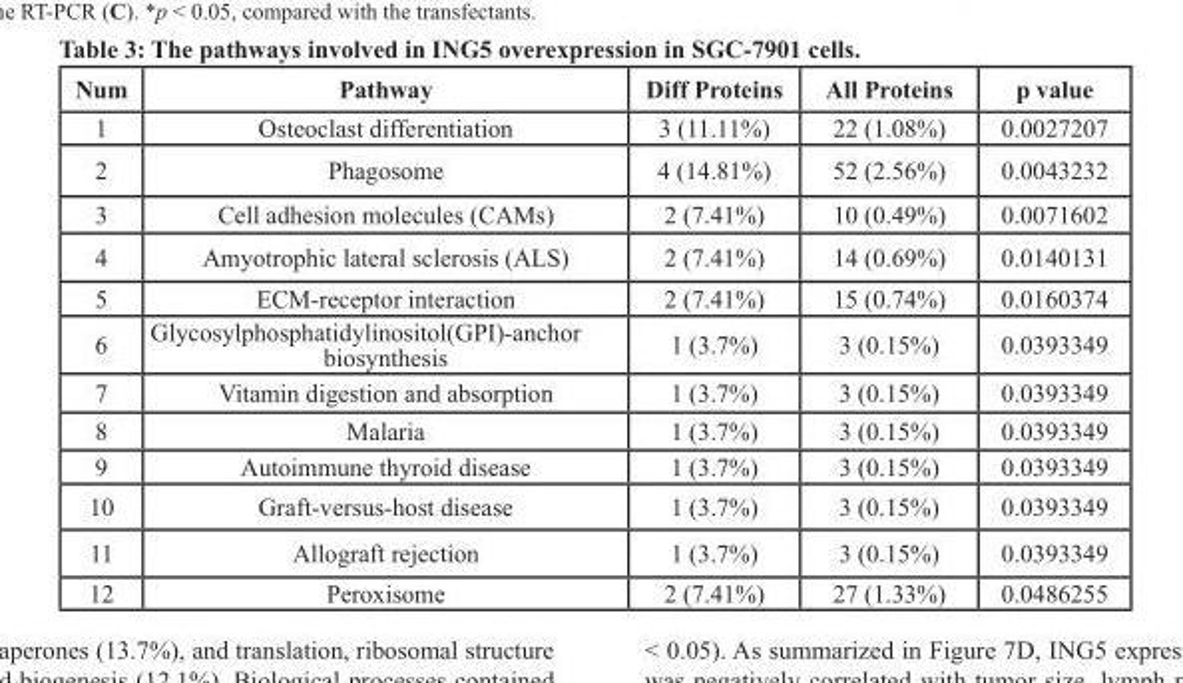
<table><thead><tr><td>Num</td><td>Pathway</td><td>Diff Proteins</td><td>All Proteins</td><td>p value</td></tr></thead><tbody><tr><td>1</td><td>Osteoclast differentiation</td><td>3 (11.11%)</td><td>22 (1.08%)</td><td>0.0027207</td></tr><tr><td>2</td><td>Phagosome</td><td>4 (14.81%)</td><td>52 (2.56%)</td><td>0.0043232</td></tr><tr><td>3</td><td>Cell adhesion molecules (CAMs)</td><td>2 (7.41%)</td><td>10 (0.49%)</td><td>0.0071602</td></tr><tr><td>4</td><td>Amyotrophic lateral sclerosis (ALS)</td><td>2 (7.41%)</td><td>14 (0.69%)</td><td>0.0140131</td></tr><tr><td>5</td><td>ECM-receptor interaction</td><td>2 (7.41%)</td><td>15 (0.74%)</td><td>0.0160374</td></tr><tr><td>6</td><td>Glycosylphosphatidylinositol(GPI)-anchor biosynthesis</td><td>1 (3.7%)</td><td>3 (0.15%)</td><td>0.0393349</td></tr><tr><td>7</td><td>Vitamin digestion and absorption</td><td>1 (3.7%)</td><td>3 (0.15%)</td><td>0.0393349</td></tr><tr><td>8</td><td>Malaria</td><td>1 (3.7%)</td><td>3 (0.15%)</td><td>0.0393349</td></tr><tr><td>9</td><td>Autoimmune thyroid disease</td><td>1 (3.7%)</td><td>3 (0.15%)</td><td>0.0393349</td></tr><tr><td>10</td><td>Graft-versus-host disease</td><td>1 (3.7%)</td><td>3 (0.15%)</td><td>0.0393349</td></tr><tr><td>11</td><td>Allograft rejection</td><td>1 (3.7%)</td><td>3 (0.15%)</td><td>0.0393349</td></tr><tr><td>12</td><td>Peroxisome</td><td>2 (7.41%)</td><td>27 (1.33%)</td><td>0.0486255</td></tr></tbody></table>